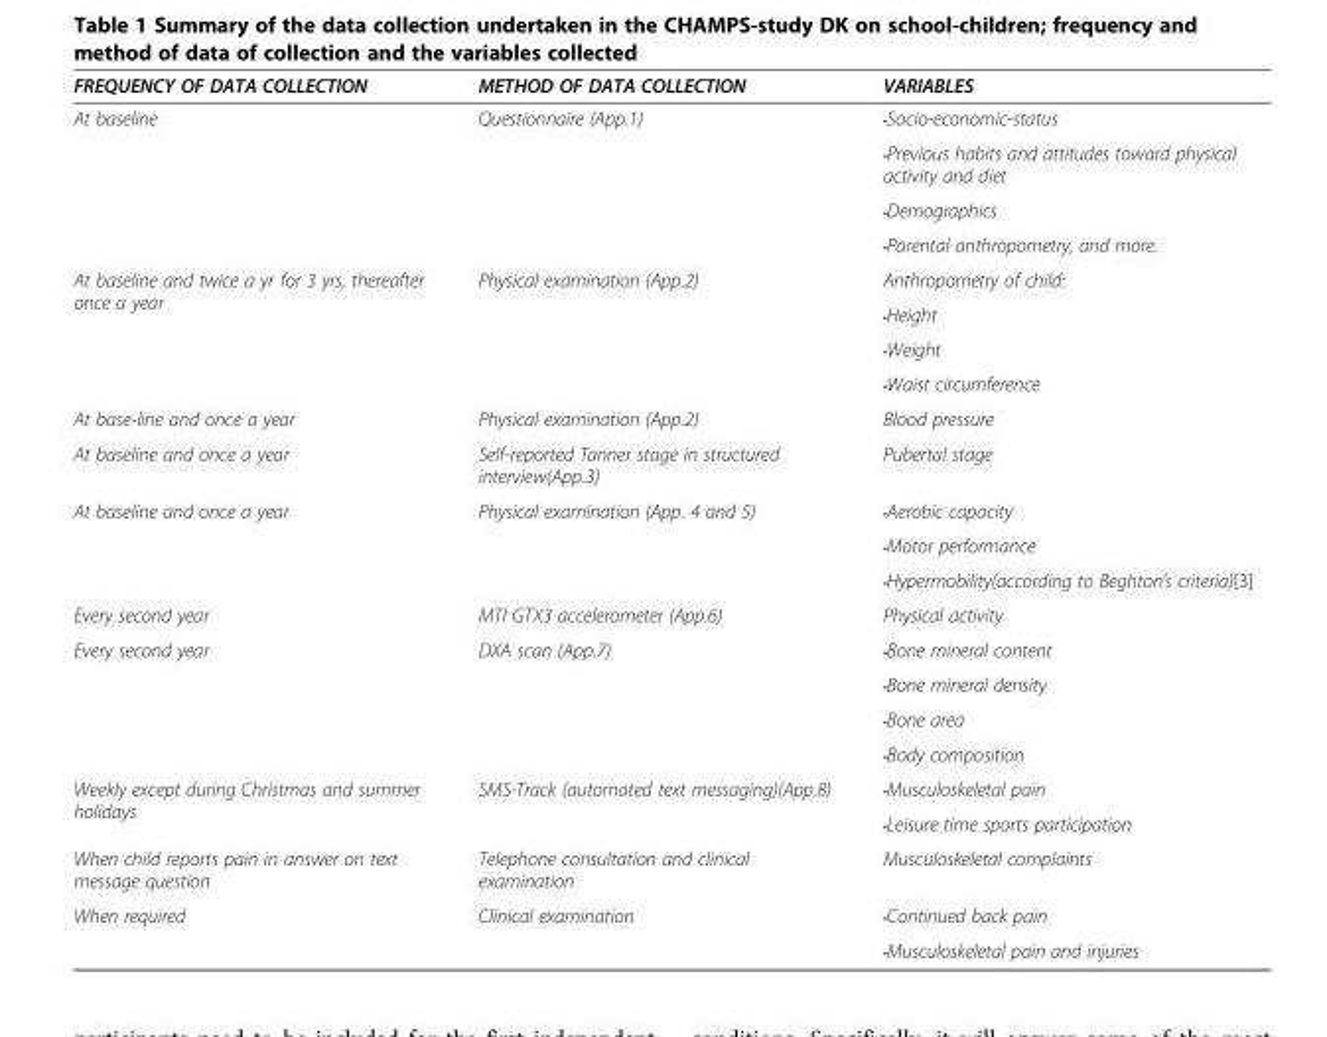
<table><thead><tr><td>FREQUENCY OF DATA COLLECTION</td><td>METHOD OF DATA COLLECTION</td><td>VARIABLES</td></tr></thead><tbody><tr><td rowspan="4">At baseline</td><td rowspan="4">Questionnaire (App.1)</td><td>•Socio-economic-status</td></tr><tr><td>•Previous habits and attitudes toward physical activity and diet</td></tr><tr><td>•Demographics</td></tr><tr><td>•Parental anthropometry, and more.</td></tr><tr><td rowspan="4">At baseline and twice a yr for 3 yrs, thereafter once a year</td><td rowspan="4">Physical examination (App.2)</td><td>Anthropometry of child:</td></tr><tr><td>•Height</td></tr><tr><td>•Weight</td></tr><tr><td>•Waist circumference</td></tr><tr><td>At base-line and once a year</td><td>Physical examination (App.2)</td><td>Blood pressure</td></tr><tr><td>At baseline and once a year</td><td>Self-reported Tanner stage in structured interview(App.3)</td><td>Pubertal stage</td></tr><tr><td rowspan="3">At baseline and once a year</td><td rowspan="3">Physical examination (App. 4 and 5)</td><td>•Aerobic capacity</td></tr><tr><td>•Motor performance</td></tr><tr><td>•Hypermobility(according to Beghton’s criteria)[3]</td></tr><tr><td>Every second year</td><td>MTI GTX3 accelerometer (App.6)</td><td>Physical activity</td></tr><tr><td rowspan="4">Every second year</td><td rowspan="4">DXA scan (App.7)</td><td>•Bone mineral content</td></tr><tr><td>•Bone mineral density</td></tr><tr><td>•Bone area</td></tr><tr><td>•Body composition</td></tr><tr><td rowspan="2">Weekly except during Christmas and summer holidays</td><td rowspan="2">SMS-Track (automated text messaging)(App.8)</td><td>•Musculoskeletal pain</td></tr><tr><td>•Leisure time sports participation</td></tr><tr><td>When child reports pain in answer on text message question</td><td>Telephone consultation and clinical examination</td><td>Musculoskeletal complaints</td></tr><tr><td rowspan="2">When required</td><td rowspan="2">Clinical examination</td><td>•Continued back pain</td></tr><tr><td>•Musculoskeletal pain and injuries</td></tr></tbody></table>